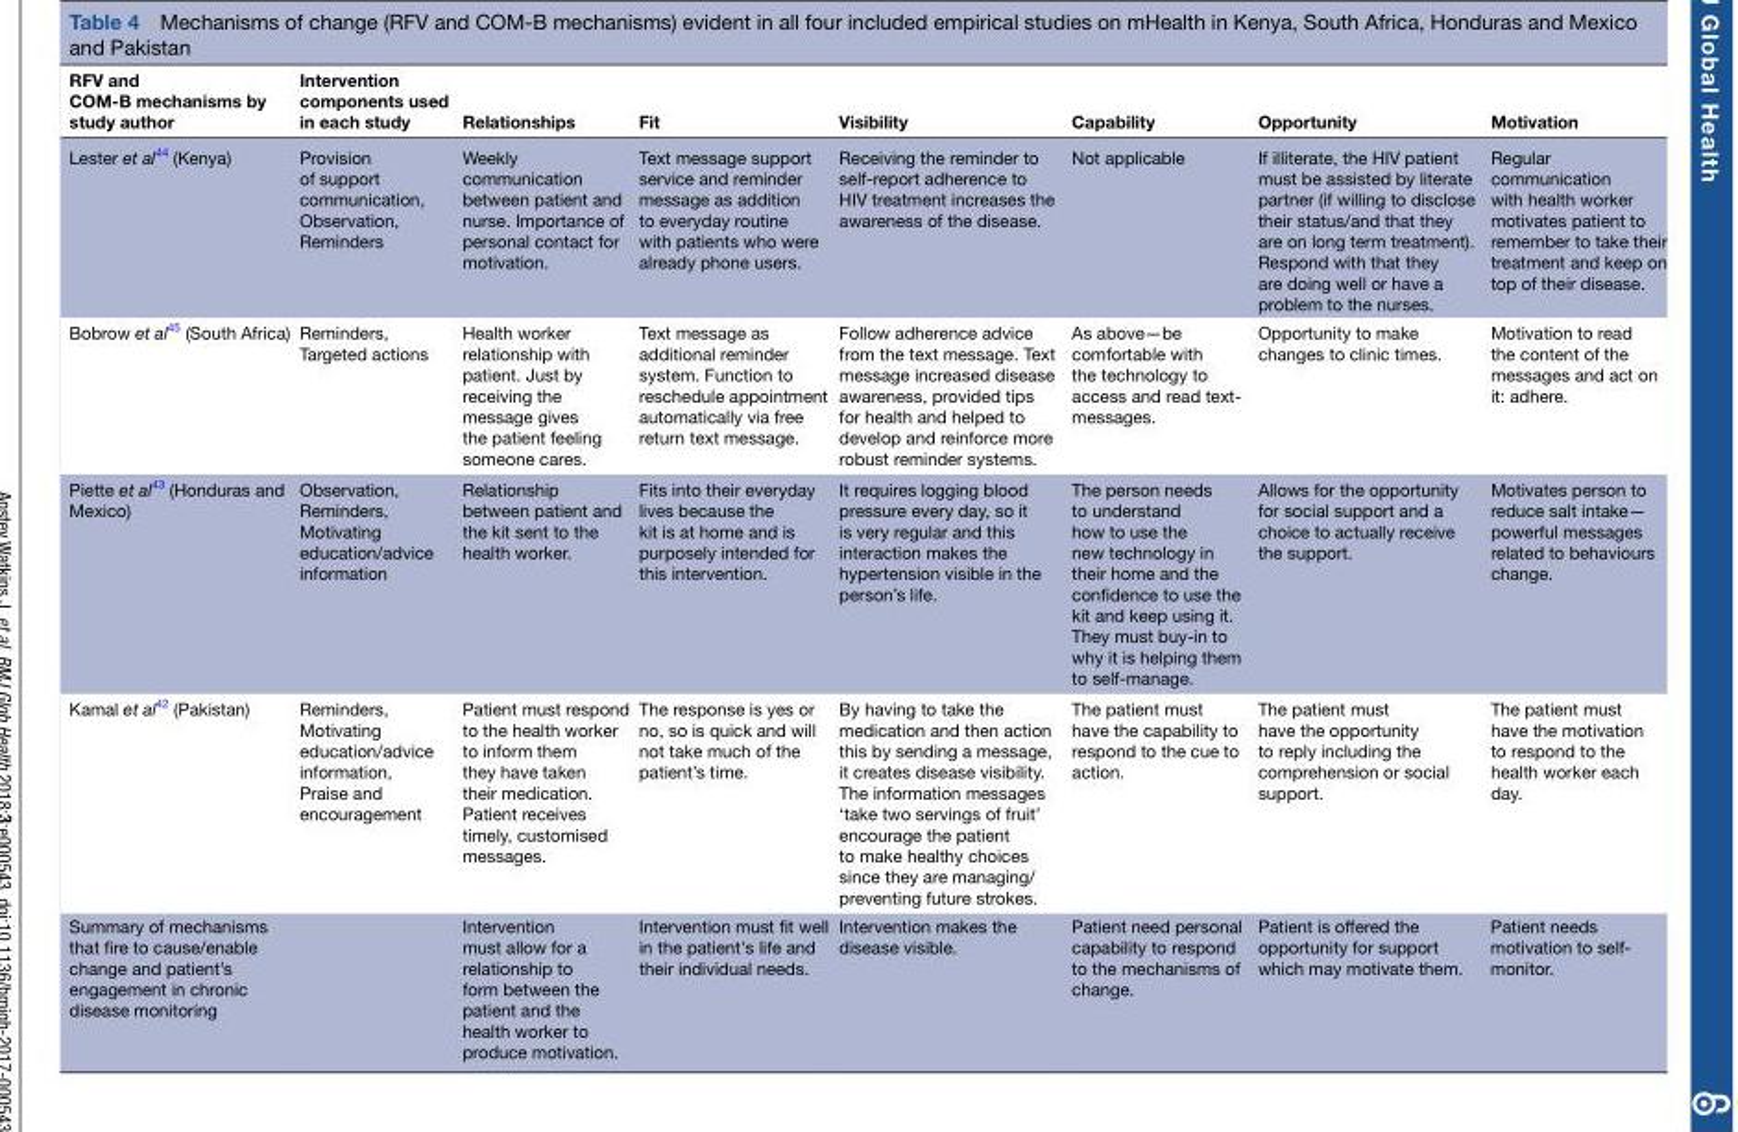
<table><thead><tr><td>RFV and COM-B mechanisms by study author</td><td>Intervention components used in each study</td><td>Relationships</td><td>Fit</td><td>Visibility</td><td>Capability</td><td>Opportunity</td><td>Motivation</td></tr></thead><tbody><tr><td>Lester et al<sup>44</sup> (Kenya)</td><td>Provision of support communication, Observation, Reminders</td><td>Weekly communication between patient and nurse. Importance of personal contact for motivation.</td><td>Text message support service and reminder message as addition to everyday routine with patients who were already phone users.</td><td>Receiving the reminder to self-report adherence to HIV treatment increases the awareness of the disease.</td><td>Not applicable</td><td>If illiterate, the HIV patient must be assisted by literate partner (if willing to disclose their status/and that they are on long term treatment). Respond with that they are doing well or have a problem to the nurses.</td><td>Regular communication with health worker motivates patient to remember to take their treatment and keep on top of their disease.</td></tr><tr><td>Bobrow et al<sup>45</sup> (South Africa)</td><td>Reminders, Targeted actions</td><td>Health worker relationship with patient. Just by receiving the message gives the patient feeling someone cares.</td><td>Text message as additional reminder system. Function to reschedule appointment automatically via free return text message.</td><td>Follow adherence advice from the text message. Text message increased disease awareness, provided tips for health and helped to develop and reinforce more robust reminder systems.</td><td>As above—be comfortable with the technology to access and read text- messages.</td><td>Opportunity to make changes to clinic times.</td><td>Motivation to read the content of the messages and act on it: adhere.</td></tr><tr><td>Piette et al<sup>43</sup> (Honduras and Mexico)</td><td>Observation, Reminders, Motivating education/advice information</td><td>Relationship between patient and the kit sent to the health worker.</td><td>Fits into their everyday lives because the kit is at home and is purposely intended for this intervention.</td><td>It requires logging blood pressure every day, so it is very regular and this interaction makes the hypertension visible in the person’s life.</td><td>The person needs to understand how to use the new technology in their home and the confidence to use the kit and keep using it. They must buy-in to why it is helping them to self-manage.</td><td>Allows for the opportunity for social support and a choice to actually receive the support.</td><td>Motivates person to reduce salt intake— powerful messages related to behaviours change.</td></tr><tr><td>Kamal et al<sup>42</sup> (Pakistan)</td><td>Reminders, Motivating education/advice information, Praise and encouragement</td><td>Patient must respond to the health worker to inform them they have taken their medication. Patient receives timely, customised messages.</td><td>The response is yes or no, so is quick and will not take much of the patient’s time.</td><td>By having to take the medication and then action this by sending a message, it creates disease visibility. The information messages ‘take two servings of fruit’ encourage the patient to make healthy choices since they are managing/ preventing future strokes.</td><td>The patient must have the capability to respond to the cue to action.</td><td>The patient must have the opportunity to reply including the comprehension or social support.</td><td>The patient must have the motivation to respond to the health worker each day.</td></tr><tr><td>Summary of mechanisms that fire to cause/enable change and patient’s engagement in chronic disease monitoring</td><td></td><td>Intervention must allow for a relationship to form between the patient and the health worker to produce motivation.</td><td>Intervention must fit well in the patient&#x27;s life and their individual needs.</td><td>Intervention makes the disease visible.</td><td>Patient need personal capability to respond to the mechanisms of change.</td><td>Patient is offered the opportunity for support which may motivate them.</td><td>Patient needs motivation to self- monitor.</td></tr></tbody></table>